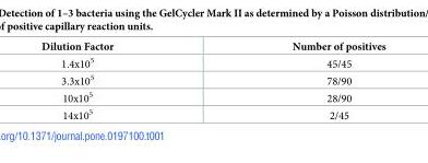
<table><thead><tr><td>Dilution Factor</td><td>Number of positives</td></tr></thead><tbody><tr><td>1.4x10<sup>5</sup></td><td>45/45</td></tr><tr><td>3.3x10<sup>5</sup></td><td>78/90</td></tr><tr><td>10x10<sup>5</sup></td><td>28/90</td></tr><tr><td>14x10<sup>5</sup></td><td>2/45</td></tr></tbody></table>